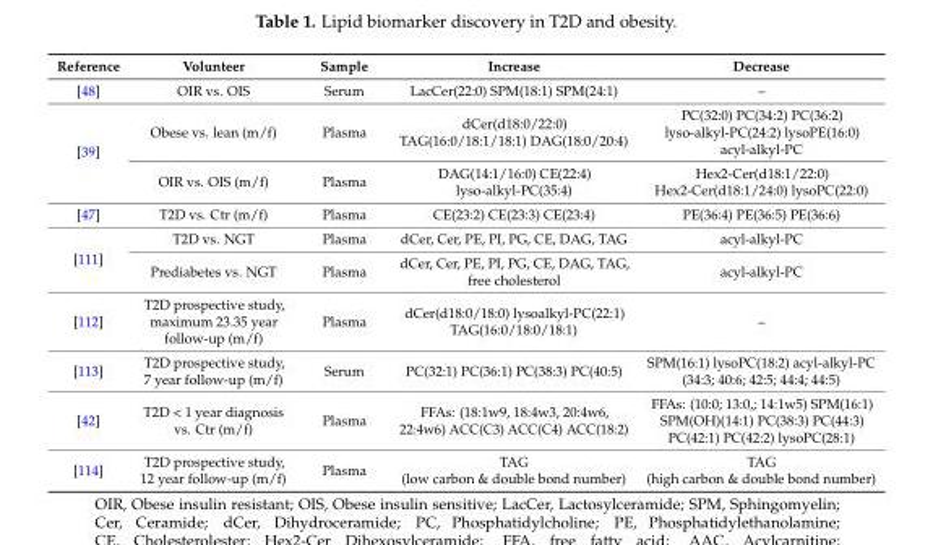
<table><thead><tr><td>Reference</td><td>Volunteer</td><td>Sample</td><td>Increase</td><td>Decrease</td></tr></thead><tbody><tr><td>[48]</td><td>OIR vs. OIS</td><td>Serum</td><td>LacCer(22:0) SPM(18:1) SPM(24:1)</td><td>–</td></tr><tr><td rowspan="2">[39]</td><td>Obese vs. lean (m/f)</td><td>Plasma</td><td>dCer(d18:0/22:0) TAG(16:0/18:1/18:1) DAG(18:0/20:4)</td><td>PC(32:0) PC(34:2) PC(36:2) lyso-alkyl-PC(24:2) lysoPE(16:0) acyl-alkyl-PC</td></tr><tr><td>OIR vs. OIS (m/f)</td><td>Plasma</td><td>DAG(14:1/16:0) CE(22:4) lyso-alkyl-PC(35:4)</td><td>Hex2-Cer(d18:1/22:0) Hex2-Cer(d18:1/24:0) lysoPC(22:0)</td></tr><tr><td>[47]</td><td>T2D vs. Ctr (m/f)</td><td>Plasma</td><td>CE(23:2) CE(23:3) CE(23:4)</td><td>PE(36:4) PE(36:5) PE(36:6)</td></tr><tr><td rowspan="2">[111]</td><td>T2D vs. NGT</td><td>Plasma</td><td>dCer, Cer, PE, PI, PG, CE, DAG, TAG</td><td>acyl-alkyl-PC</td></tr><tr><td>Prediabetes vs. NGT</td><td>Plasma</td><td>dCer, Cer, PE, PI, PG, CE, DAG, TAG, free cholesterol</td><td>acyl-alkyl-PC</td></tr><tr><td>[112]</td><td>T2D prospective study, maximum 23.35 year follow-up (m/f)</td><td>Plasma</td><td>dCer(d18:0/18:0) lysoalkyl-PC(22:1) TAG(16:0/18:0/18:1)</td><td>–</td></tr><tr><td>[113]</td><td>T2D prospective study, 7 year follow-up (m/f)</td><td>Serum</td><td>PC(32:1) PC(36:1) PC(38:3) PC(40:5)</td><td>SPM(16:1) lysoPC(18:2) acyl-alkyl-PC (34:3; 40:6; 42:5; 44:4; 44:5)</td></tr><tr><td>[42]</td><td>T2D &lt; 1 year diagnosis vs. Ctr (m/f)</td><td>Plasma</td><td>FFAs: (18:1w9, 18:4w3, 20:4w6, 22:4w6) ACC(C3) ACC(C4) ACC(18:2)</td><td>FFAs: (10:0; 13:0,; 14:1w5) SPM(16:1) SPM(OH)(14:1) PC(38:3) PC(44:3) PC(42:1) PC(42:2) lysoPC(28:1)</td></tr><tr><td>[114]</td><td>T2D prospective study, 12 year follow-up (m/f)</td><td>Plasma</td><td>TAG (low carbon &amp; double bond number)</td><td>TAG (high carbon &amp; double bond number)</td></tr></tbody></table>